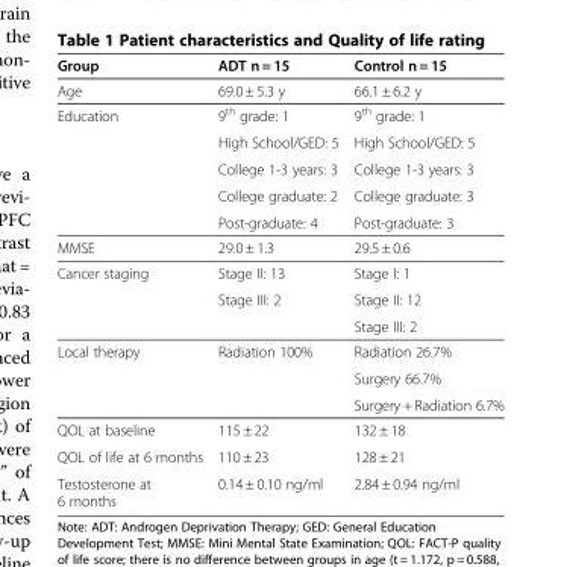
<table><thead><tr><td>Group</td><td>ADT n = 15</td><td>Control n = 15</td></tr></thead><tbody><tr><td>Age</td><td>69.0 ± 5.3 y</td><td>66.1 ± 6.2 y</td></tr><tr><td rowspan="5">Education</td><td>9<sup>th</sup> grade: 1</td><td>9<sup>th</sup> grade: 1</td></tr><tr><td>High School/GED: 5</td><td>High School/GED: 5</td></tr><tr><td>College 1-3 years: 3</td><td>College 1-3 years: 3</td></tr><tr><td>College graduate: 2</td><td>College graduate: 3</td></tr><tr><td>Post-graduate: 4</td><td>Post-graduate: 3</td></tr><tr><td>MMSE</td><td>29.0 ± 1.3</td><td>29.5 ± 0.6</td></tr><tr><td rowspan="3">Cancer staging</td><td>Stage II: 13</td><td>Stage I: 1</td></tr><tr><td>Stage III: 2</td><td>Stage II: 12</td></tr><tr><td></td><td>Stage III: 2</td></tr><tr><td rowspan="3">Local therapy</td><td>Radiation 100%</td><td>Radiation 26.7%</td></tr><tr><td></td><td>Surgery 66.7%</td></tr><tr><td></td><td>Surgery + Radiation 6.7%</td></tr><tr><td>QOL at baseline</td><td>115 ± 22</td><td>132 ± 18</td></tr><tr><td>QOL of life at 6 months</td><td>110 ± 23</td><td>128 ± 21</td></tr><tr><td>Testosterone at 6 months</td><td>0.14 ± 0.10 ng/ml</td><td>2.84 ± 0.94 ng/ml</td></tr></tbody></table>